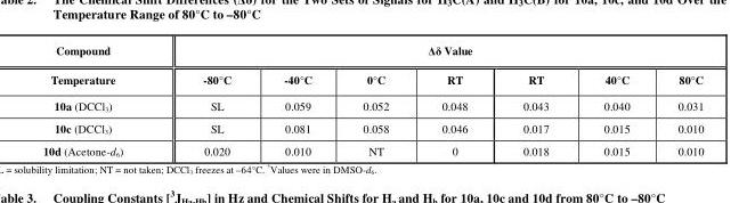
<table><thead><tr><td rowspan="2">Compound Temperature</td><td colspan="7">Δδ Value</td></tr><tr><td>-80°C</td><td>-40°C</td><td>0°C</td><td>RT</td><td>RT</td><td>40°C</td><td>80°C</td></tr></thead><tbody><tr><td>10a (DCCl3)</td><td>SL</td><td>0.059</td><td>0.052</td><td>0.048</td><td>0.043</td><td>0.040</td><td>0.031</td></tr><tr><td>10c (DCCl3)</td><td>SL</td><td>0.081</td><td>0.058</td><td>0.046</td><td>0.017</td><td>0.015</td><td>0.010</td></tr><tr><td>10d (Acetone-d6)</td><td>0.020</td><td>0.010</td><td>NT</td><td>0</td><td>0.018</td><td>0.015</td><td>0.010</td></tr></tbody></table>